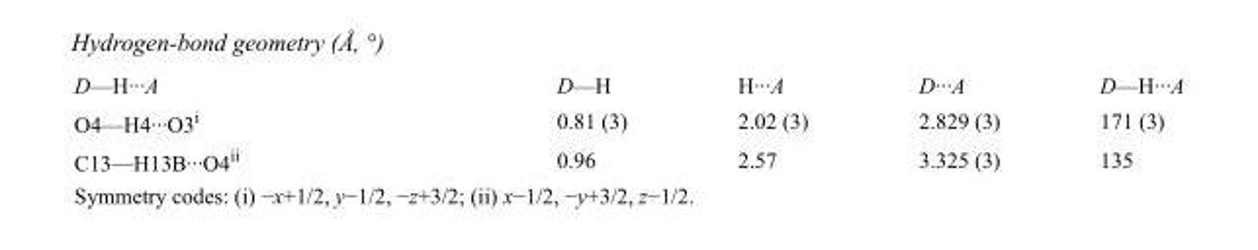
<table><tbody><tr><td>D—H···A</td><td>D—H</td><td>H···A</td><td>D···A</td><td>D—H···A</td></tr><tr><td>O4—H4···O3<sup>i</sup></td><td>0.81 (3)</td><td>2.02 (3)</td><td>2.829 (3)</td><td>171 (3)</td></tr><tr><td>C13—H13B···O4<sup>ii</sup></td><td>0.96</td><td>2.57</td><td>3.325 (3)</td><td>135</td></tr></tbody></table>